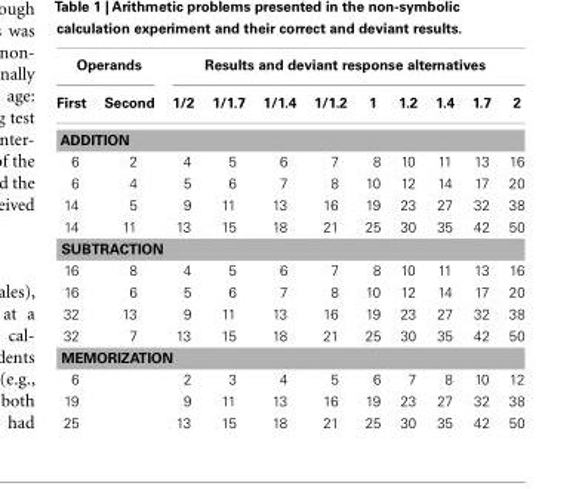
<table><thead><tr><td colspan="2">Operands</td><td colspan="9">Results and deviant response alternatives</td></tr><tr><td>First</td><td>Second</td><td>1/2</td><td>1/1.7</td><td>1/1.4</td><td>1/1.2</td><td>1</td><td>1.2</td><td>1.4</td><td>1.7</td><td>2</td></tr></thead><tbody><tr><td colspan="11">ADDITION</td></tr><tr><td>6</td><td>2</td><td>4</td><td>5</td><td>6</td><td>7</td><td>8</td><td>10</td><td>11</td><td>13</td><td>16</td></tr><tr><td>6</td><td>4</td><td>5</td><td>6</td><td>7</td><td>8</td><td>10</td><td>12</td><td>14</td><td>17</td><td>20</td></tr><tr><td>14</td><td>5</td><td>9</td><td>11</td><td>13</td><td>16</td><td>19</td><td>23</td><td>27</td><td>32</td><td>38</td></tr><tr><td>14</td><td>11</td><td>13</td><td>15</td><td>18</td><td>21</td><td>25</td><td>30</td><td>35</td><td>42</td><td>50</td></tr><tr><td colspan="11">SUBTRACTION</td></tr><tr><td>16</td><td>8</td><td>4</td><td>5</td><td>6</td><td>7</td><td>8</td><td>10</td><td>11</td><td>13</td><td>16</td></tr><tr><td>16</td><td>6</td><td>5</td><td>6</td><td>7</td><td>8</td><td>10</td><td>12</td><td>14</td><td>17</td><td>20</td></tr><tr><td>32</td><td>13</td><td>9</td><td>11</td><td>13</td><td>16</td><td>19</td><td>23</td><td>27</td><td>32</td><td>38</td></tr><tr><td>32</td><td>7</td><td>13</td><td>15</td><td>18</td><td>21</td><td>25</td><td>30</td><td>35</td><td>42</td><td>50</td></tr><tr><td colspan="11">MEMORIZATION</td></tr><tr><td>6</td><td></td><td>2</td><td>3</td><td>4</td><td>5</td><td>6</td><td>7</td><td>8</td><td>10</td><td>12</td></tr><tr><td>19</td><td></td><td>9</td><td>11</td><td>13</td><td>16</td><td>19</td><td>23</td><td>27</td><td>32</td><td>38</td></tr><tr><td>25</td><td></td><td>13</td><td>15</td><td>18</td><td>21</td><td>25</td><td>30</td><td>35</td><td>42</td><td>50</td></tr></tbody></table>